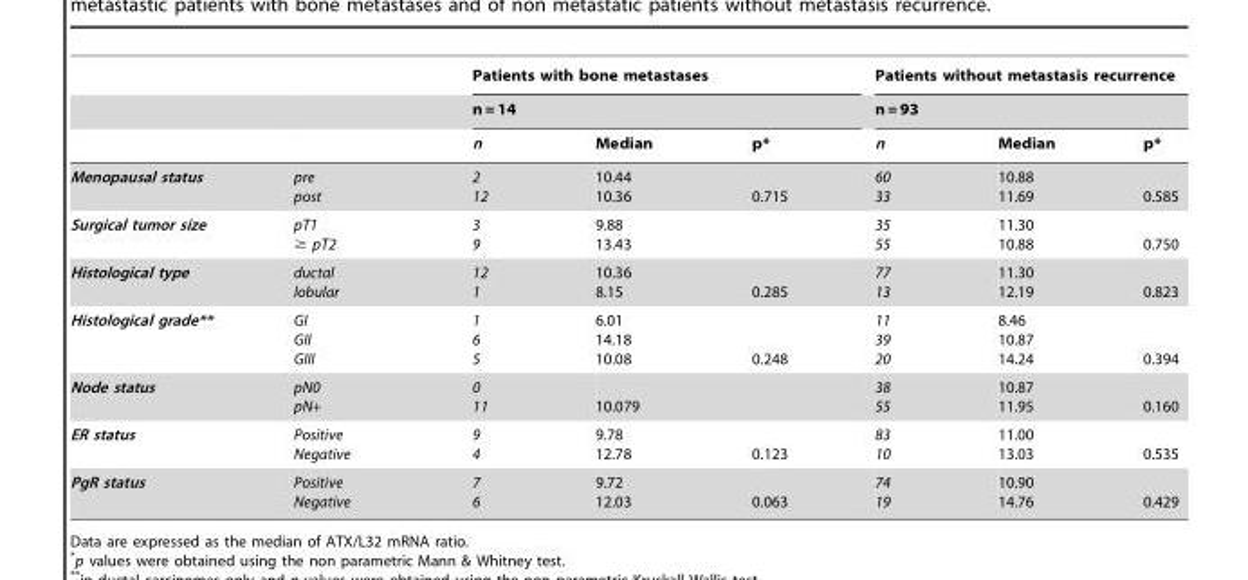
<table><thead><tr><td rowspan="3"></td><td rowspan="3"></td><td rowspan="2" colspan="3">Patients with bone metastases n = 14</td><td rowspan="2" colspan="3">Patients without metastasis recurrence n = 93</td></tr><tr></tr><tr><td>n</td><td>Median</td><td>p*</td><td>n</td><td>Median</td><td>p*</td></tr></thead><tbody><tr><td>Menopausal status</td><td>pre post</td><td>2 12</td><td>10.44 10.36</td><td>0.715</td><td>60 33</td><td>10.88 11.69</td><td>0.585</td></tr><tr><td>Surgical tumor size</td><td>pT1 ≥ pT2</td><td>3 9</td><td>9.88 13.43</td><td></td><td>35 55</td><td>11.30 10.88</td><td>0.750</td></tr><tr><td>Histological type</td><td>ductal lobular</td><td>12 1</td><td>10.36 8.15</td><td>0.285</td><td>77 13</td><td>11.30 12.19</td><td>0.823</td></tr><tr><td>Histological grade**</td><td>GI GII GIII</td><td>1 6 5</td><td>6.01 14.18 10.08</td><td>0.248</td><td>11 39 20</td><td>8.46 10.87 14.24</td><td>0.394</td></tr><tr><td>Node status</td><td>pN0 pN+</td><td>0 11</td><td>10.079</td><td></td><td>38 55</td><td>10.87 11.95</td><td>0.160</td></tr><tr><td>ER status</td><td>Positive Negative</td><td>9 4</td><td>9.78 12.78</td><td>0.123</td><td>83 10</td><td>11.00 13.03</td><td>0.535</td></tr><tr><td>PgR status</td><td>Positive Negative</td><td>7 6</td><td>9.72 12.03</td><td>0.063</td><td>74 19</td><td>10.90 14.76</td><td>0.429</td></tr></tbody></table>